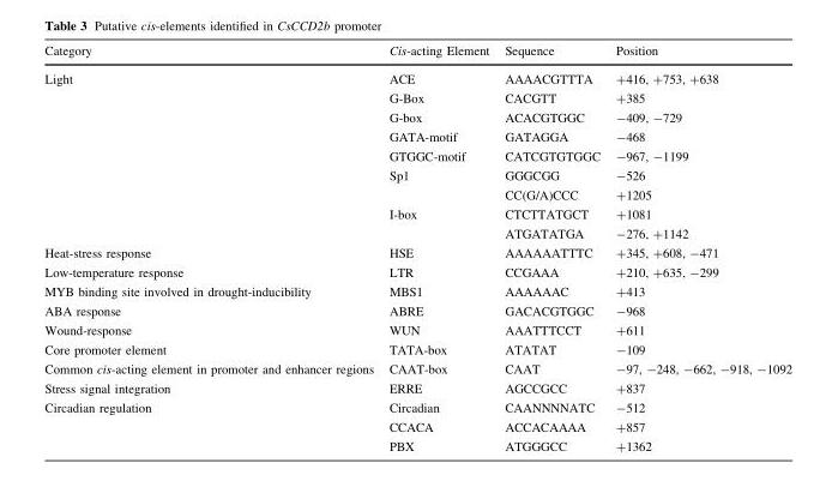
<table><thead><tr><td>Category</td><td>Cis-acting Element</td><td>Sequence</td><td>Position</td></tr></thead><tbody><tr><td rowspan="9">Light</td><td>ACE</td><td>AAAACGTTTA</td><td>+416, +753, +638</td></tr><tr><td>G-Box</td><td>CACGTT</td><td>+385</td></tr><tr><td>G-box</td><td>ACACGTGGC</td><td>-409, -729</td></tr><tr><td>GATA-motif</td><td>GATAGGA</td><td>-468</td></tr><tr><td>GTGGC-motif</td><td>CATCGTGTGGC</td><td>-967, -1199</td></tr><tr><td rowspan="2">Sp1</td><td>GGGCGG</td><td>-526</td></tr><tr><td>CC(G/A)CCC</td><td>+1205</td></tr><tr><td rowspan="2">I-box</td><td>CTCTTATGCT</td><td>+1081</td></tr><tr><td>ATGATATGA</td><td>-276, +1142</td></tr><tr><td>Heat-stress response</td><td>HSE</td><td>AAAAAATTTC</td><td>+345, +608, -471</td></tr><tr><td>Low-temperature response</td><td>LTR</td><td>CCGAAA</td><td>+210, +635, -299</td></tr><tr><td>MYB binding site involved in drought-inducibility</td><td>MBS1</td><td>AAAAAAC</td><td>+413</td></tr><tr><td>ABA response</td><td>ABRE</td><td>GACACGTGGC</td><td>-968</td></tr><tr><td>Wound-response</td><td>WUN</td><td>AAATTTCCT</td><td>+611</td></tr><tr><td>Core promoter element</td><td>TATA-box</td><td>ATATAT</td><td>-109</td></tr><tr><td>Common cis-acting element in promoter and enhancer regions</td><td>CAAT-box</td><td>CAAT</td><td>-97, -248, -662, -918, -1092</td></tr><tr><td>Stress signal integration</td><td>ERRE</td><td>AGCCGCC</td><td>+837</td></tr><tr><td rowspan="3">Circadian regulation</td><td>Circadian</td><td>CAANNNNATC</td><td>-512</td></tr><tr><td>CCACA</td><td>ACCACAAAA</td><td>+857</td></tr><tr><td>PBX</td><td>ATGGGCC</td><td>+1362</td></tr></tbody></table>